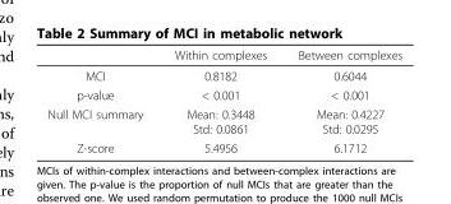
<table><thead><tr><td></td><td>Within complexes</td><td>Between complexes</td></tr></thead><tbody><tr><td>MCI</td><td>0.8182</td><td>0.6044</td></tr><tr><td>p-value</td><td>&lt; 0.001</td><td>&lt; 0.001</td></tr><tr><td>Null MCI summary</td><td>Mean: 0.3448 Std: 0.0861</td><td>Mean: 0.4227 Std: 0.0295</td></tr><tr><td>Z-score</td><td>5.4956</td><td>6.1712</td></tr></tbody></table>